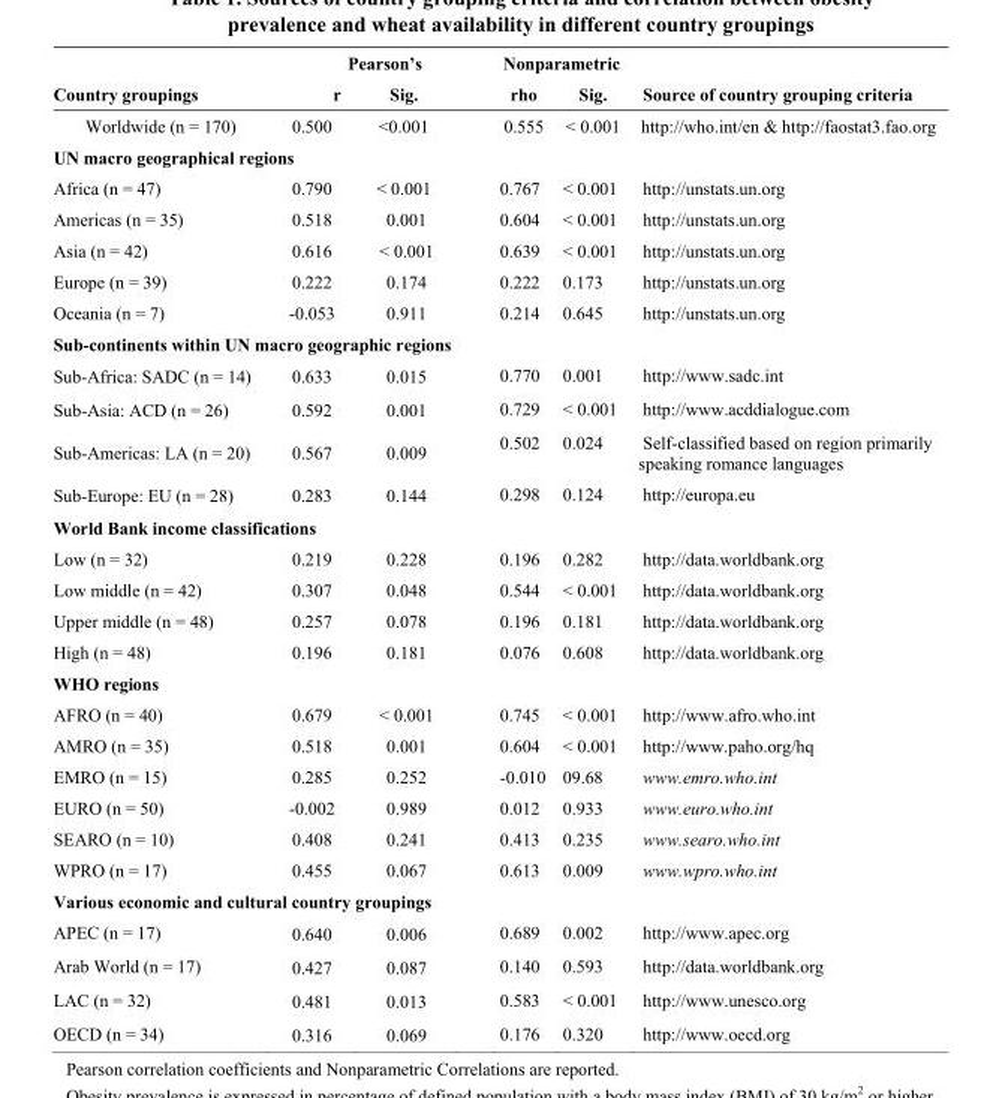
<table><thead><tr><td rowspan="2">Country groupings</td><td colspan="2">Pearson’s</td><td colspan="2">Nonparametric</td><td rowspan="2">Source of country grouping criteria</td></tr><tr><td>r</td><td>Sig.</td><td>rho</td><td>Sig.</td></tr></thead><tbody><tr><td>Worldwide (n = 170)</td><td>0.500</td><td>&lt;0.001</td><td>0.555</td><td>&lt; 0.001</td><td>http://who.int/en &amp; http://faostat3.fao.org</td></tr><tr><td colspan="6">UN macro geographical regions</td></tr><tr><td>Africa (n = 47)</td><td>0.790</td><td>&lt; 0.001</td><td>0.767</td><td>&lt; 0.001</td><td>http://unstats.un.org</td></tr><tr><td>Americas (n = 35)</td><td>0.518</td><td>0.001</td><td>0.604</td><td>&lt; 0.001</td><td>http://unstats.un.org</td></tr><tr><td>Asia (n = 42)</td><td>0.616</td><td>&lt; 0.001</td><td>0.639</td><td>&lt; 0.001</td><td>http://unstats.un.org</td></tr><tr><td>Europe (n = 39)</td><td>0.222</td><td>0.174</td><td>0.222</td><td>0.173</td><td>http://unstats.un.org</td></tr><tr><td>Oceania (n = 7)</td><td>-0.053</td><td>0.911</td><td>0.214</td><td>0.645</td><td>http://unstats.un.org</td></tr><tr><td colspan="6">Sub-continents within UN macro geographic regions</td></tr><tr><td>Sub-Africa: SADC (n = 14)</td><td>0.633</td><td>0.015</td><td>0.770</td><td>0.001</td><td>http://www.sadc.int</td></tr><tr><td>Sub-Asia: ACD (n = 26)</td><td>0.592</td><td>0.001</td><td>0.729</td><td>&lt; 0.001</td><td>http://www.acddialogue.com</td></tr><tr><td>Sub-Americas: LA (n = 20)</td><td>0.567</td><td>0.009</td><td>0.502</td><td>0.024</td><td>Self-classified based on region primarily speaking romance languages</td></tr><tr><td>Sub-Europe: EU (n = 28)</td><td>0.283</td><td>0.144</td><td>0.298</td><td>0.124</td><td>http://europa.eu</td></tr><tr><td colspan="6">World Bank income classifications</td></tr><tr><td>Low (n = 32)</td><td>0.219</td><td>0.228</td><td>0.196</td><td>0.282</td><td>http://data.worldbank.org</td></tr><tr><td>Low middle (n = 42)</td><td>0.307</td><td>0.048</td><td>0.544</td><td>&lt; 0.001</td><td>http://data.worldbank.org</td></tr><tr><td>Upper middle (n = 48)</td><td>0.257</td><td>0.078</td><td>0.196</td><td>0.181</td><td>http://data.worldbank.org</td></tr><tr><td>High (n = 48)</td><td>0.196</td><td>0.181</td><td>0.076</td><td>0.608</td><td>http://data.worldbank.org</td></tr><tr><td colspan="6">WHO regions</td></tr><tr><td>AFRO (n = 40)</td><td>0.679</td><td>&lt; 0.001</td><td>0.745</td><td>&lt; 0.001</td><td>http://www.afro.who.int</td></tr><tr><td>AMRO (n = 35)</td><td>0.518</td><td>0.001</td><td>0.604</td><td>&lt; 0.001</td><td>http://www.paho.org/hq</td></tr><tr><td>EMRO (n = 15)</td><td>0.285</td><td>0.252</td><td>-0.010</td><td>09.68</td><td>www.emro.who.int</td></tr><tr><td>EURO (n = 50)</td><td>-0.002</td><td>0.989</td><td>0.012</td><td>0.933</td><td>www.euro.who.int</td></tr><tr><td>SEARO (n = 10)</td><td>0.408</td><td>0.241</td><td>0.413</td><td>0.235</td><td>www.searo.who.int</td></tr><tr><td>WPRO (n = 17)</td><td>0.455</td><td>0.067</td><td>0.613</td><td>0.009</td><td>www.wpro.who.int</td></tr><tr><td colspan="6">Various economic and cultural country groupings</td></tr><tr><td>APEC (n = 17)</td><td>0.640</td><td>0.006</td><td>0.689</td><td>0.002</td><td>http://www.apec.org</td></tr><tr><td>Arab World (n = 17)</td><td>0.427</td><td>0.087</td><td>0.140</td><td>0.593</td><td>http://data.worldbank.org</td></tr><tr><td>LAC (n = 32)</td><td>0.481</td><td>0.013</td><td>0.583</td><td>&lt; 0.001</td><td>http://www.unesco.org</td></tr><tr><td>OECD (n = 34)</td><td>0.316</td><td>0.069</td><td>0.176</td><td>0.320</td><td>http://www.oecd.org</td></tr></tbody></table>